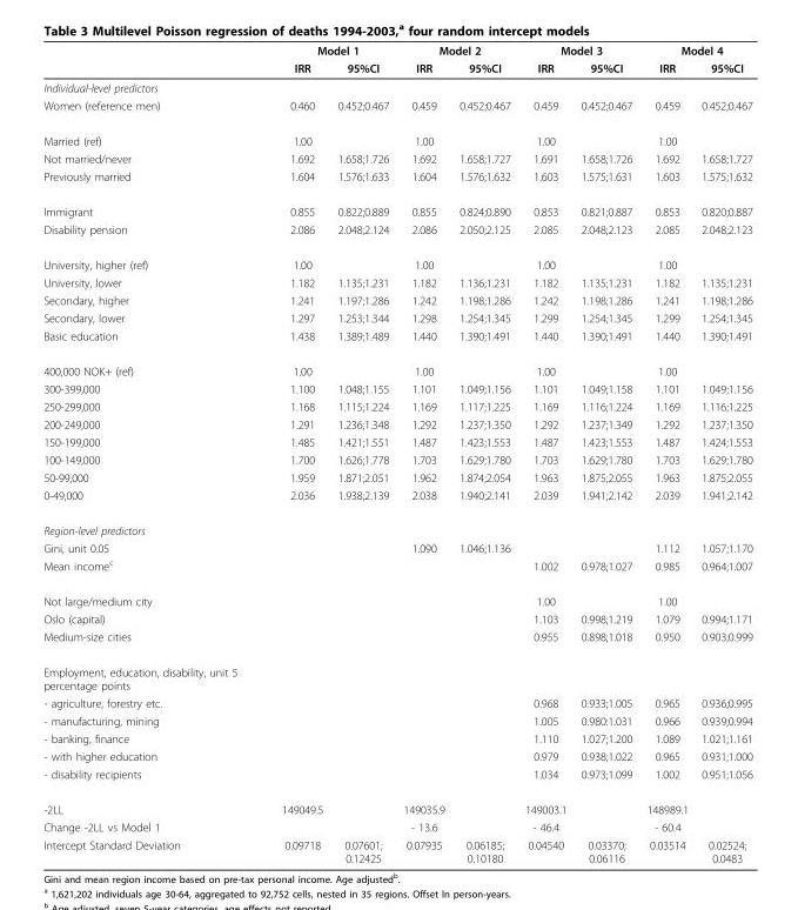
<table><thead><tr><td rowspan="2"></td><td colspan="2">Model 1</td><td colspan="2">Model 2</td><td colspan="2">Model 3</td><td colspan="2">Model 4</td></tr><tr><td>IRR</td><td>95%CI</td><td>IRR</td><td>95%CI</td><td>IRR</td><td>95%CI</td><td>IRR</td><td>95%CI</td></tr></thead><tbody><tr><td colspan="9">Individual-level predictors</td></tr><tr><td>Women (reference men)</td><td>0.460</td><td>0.452;0.467</td><td>0.459</td><td>0.452;0.467</td><td>0.459</td><td>0.452;0.467</td><td>0.459</td><td>0.452;0.467</td></tr><tr><td>Married (ref)</td><td>1.00</td><td></td><td>1.00</td><td></td><td>1.00</td><td></td><td>1.00</td><td></td></tr><tr><td>Not married/never</td><td>1.692</td><td>1.658;1.726</td><td>1.692</td><td>1.658;1.727</td><td>1.691</td><td>1.658;1.726</td><td>1.692</td><td>1.658;1.727</td></tr><tr><td>Previously married</td><td>1.604</td><td>1.576;1.633</td><td>1.604</td><td>1.576;1.632</td><td>1.603</td><td>1.575;1.631</td><td>1.603</td><td>1.575;1.632</td></tr><tr><td>Immigrant</td><td>0.855</td><td>0.822;0.889</td><td>0.855</td><td>0.824;0.890</td><td>0.853</td><td>0.821;0.887</td><td>0.853</td><td>0.820;0.887</td></tr><tr><td>Disability pension</td><td>2.086</td><td>2.048;2.124</td><td>2.086</td><td>2.050;2.125</td><td>2.085</td><td>2.048;2.123</td><td>2.085</td><td>2.048;2.123</td></tr><tr><td>University, higher (ref)</td><td>1.00</td><td></td><td>1.00</td><td></td><td>1.00</td><td></td><td>1.00</td><td></td></tr><tr><td>University, lower</td><td>1.182</td><td>1.135;1.231</td><td>1.182</td><td>1.136;1.231</td><td>1.182</td><td>1.135;1.231</td><td>1.182</td><td>1.135;1.231</td></tr><tr><td>Secondary, higher</td><td>1.241</td><td>1.197;1.286</td><td>1.242</td><td>1.198;1.286</td><td>1.242</td><td>1.198;1.286</td><td>1.241</td><td>1.198;1.286</td></tr><tr><td>Secondary, lower</td><td>1.297</td><td>1.253;1.344</td><td>1.298</td><td>1.254;1.345</td><td>1.299</td><td>1.254;1.345</td><td>1.299</td><td>1.254;1.345</td></tr><tr><td>Basic education</td><td>1.438</td><td>1.389;1.489</td><td>1.440</td><td>1.390;1.491</td><td>1.440</td><td>1.390;1.491</td><td>1.440</td><td>1.390;1.491</td></tr><tr><td>400,000 NOK+ (ref)</td><td>1.00</td><td></td><td>1.00</td><td></td><td>1.00</td><td></td><td>1.00</td><td></td></tr><tr><td>300-399,000</td><td>1.100</td><td>1.048;1.155</td><td>1.101</td><td>1.049;1.156</td><td>1.101</td><td>1.049;1.158</td><td>1.101</td><td>1.049;1.156</td></tr><tr><td>250-299,000</td><td>1.168</td><td>1.115;1.224</td><td>1.169</td><td>1.117;1.225</td><td>1.169</td><td>1.116;1.224</td><td>1.169</td><td>1.116;1.225</td></tr><tr><td>200-249,000</td><td>1.291</td><td>1.236;1.348</td><td>1.292</td><td>1.237;1.350</td><td>1.292</td><td>1.237;1.349</td><td>1.292</td><td>1.237;1.350</td></tr><tr><td>150-199,000</td><td>1.485</td><td>1.421;1.551</td><td>1.487</td><td>1.423;1.553</td><td>1.487</td><td>1.423;1.553</td><td>1.487</td><td>1.424;1.553</td></tr><tr><td>100-149,000</td><td>1.700</td><td>1.626;1.778</td><td>1.703</td><td>1.629;1.780</td><td>1.703</td><td>1.629;1.780</td><td>1.703</td><td>1.629;1.780</td></tr><tr><td>50-99,000</td><td>1.959</td><td>1.871;2.051</td><td>1.962</td><td>1.874;2.054</td><td>1.963</td><td>1.875;2.055</td><td>1.963</td><td>1.875;2.055</td></tr><tr><td>0-49,000</td><td>2.036</td><td>1.938;2.139</td><td>2.038</td><td>1.940;2.141</td><td>2.039</td><td>1.941;2.142</td><td>2.039</td><td>1.941;2.142</td></tr><tr><td colspan="9">Region-level predictors</td></tr><tr><td>Gini, unit 0.05</td><td></td><td></td><td>1.090</td><td>1.046;1.136</td><td></td><td></td><td>1.112</td><td>1.057;1.170</td></tr><tr><td>Mean income<sup>c</sup></td><td></td><td></td><td></td><td></td><td>1.002</td><td>0.978;1.027</td><td>0.985</td><td>0.964;1.007</td></tr><tr><td>Not large/medium city</td><td></td><td></td><td></td><td></td><td>1.00</td><td></td><td>1.00</td><td></td></tr><tr><td>Oslo (capital)</td><td></td><td></td><td></td><td></td><td>1.103</td><td>0.998;1.219</td><td>1.079</td><td>0.994;1.171</td></tr><tr><td>Medium-size cities</td><td></td><td></td><td></td><td></td><td>0.955</td><td>0.898;1.018</td><td>0.950</td><td>0.903;0.999</td></tr><tr><td colspan="9">Employment, education, disability, unit 5 percentage points</td></tr><tr><td>- agriculture, forestry etc.</td><td></td><td></td><td></td><td></td><td>0.968</td><td>0.933;1.005</td><td>0.965</td><td>0.936;0.995</td></tr><tr><td>- manufacturing, mining</td><td></td><td></td><td></td><td></td><td>1.005</td><td>0.980:1.031</td><td>0.966</td><td>0.939;0.994</td></tr><tr><td>- banking, finance</td><td></td><td></td><td></td><td></td><td>1.110</td><td>1.027;1.200</td><td>1.089</td><td>1.021;1.161</td></tr><tr><td>- with higher education</td><td></td><td></td><td></td><td></td><td>0.979</td><td>0.938;1.022</td><td>0.965</td><td>0.931;1.000</td></tr><tr><td>- disability recipients</td><td></td><td></td><td></td><td></td><td>1.034</td><td>0.973;1.099</td><td>1.002</td><td>0.951;1.056</td></tr><tr><td>-2LL</td><td>149049.5</td><td></td><td>149035.9</td><td></td><td>149003.1</td><td></td><td>148989.1</td><td></td></tr><tr><td>Change -2LL vs Model 1</td><td></td><td></td><td>- 13.6</td><td></td><td>- 46.4</td><td></td><td>- 60.4</td><td></td></tr><tr><td>Intercept Standard Deviation</td><td>0.09718</td><td>0.07601; 0.12425</td><td>0.07935</td><td>0.06185; 0.10180</td><td>0.04540</td><td>0.03370; 0.06116</td><td>0.03514</td><td>0.02524; 0.0483</td></tr></tbody></table>